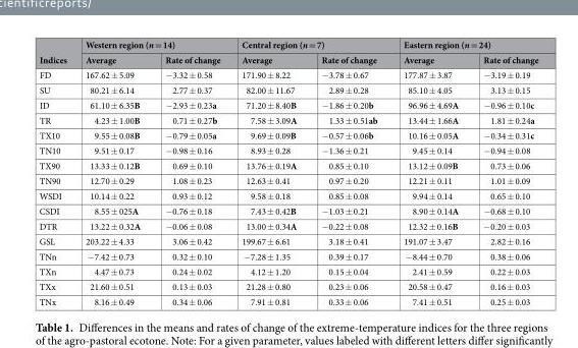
<table><thead><tr><td rowspan="2">Indices</td><td colspan="2">Western region (n = 14)</td><td colspan="2">Central region (n = 7)</td><td colspan="2">Eastern region (n = 24)</td></tr><tr><td>Average</td><td>Rate of change</td><td>Average</td><td>Rate of change</td><td>Average</td><td>Rate of change</td></tr></thead><tbody><tr><td>FD</td><td>167.62 ± 5.09</td><td>−3.32 ± 0.58</td><td>171.90 ± 8.22</td><td>−3.78 ± 0.67</td><td>177.87 ± 3.87</td><td>−3.19 ± 0.19</td></tr><tr><td>SU</td><td>80.21 ± 6.14</td><td>2.77 ± 0.37</td><td>82.00 ± 11.67</td><td>2.89 ± 0.28</td><td>85.10 ± 4.05</td><td>3.13 ± 0.15</td></tr><tr><td>ID</td><td>61.10 ± 6.35B</td><td>−2.93 ± 0.23a</td><td>71.20 ± 8.40B</td><td>−1.86 ± 0.20b</td><td>96.96 ± 4.69A</td><td>−0.96 ± 0.10c</td></tr><tr><td>TR</td><td>4.23 ± 1.00B</td><td>0.71 ± 0.27b</td><td>7.58 ± 3.09A</td><td>1.33 ± 0.51ab</td><td>13.44 ± 1.66A</td><td>1.81 ± 0.24a</td></tr><tr><td>TX10</td><td>9.55 ± 0.08B</td><td>−0.79 ± 0.05a</td><td>9.69 ± 0.09B</td><td>−0.57 ± 0.06b</td><td>10.16 ± 0.05A</td><td>−0.34 ± 0.31c</td></tr><tr><td>TN10</td><td>9.51 ± 0.17</td><td>−0.98 ± 0.16</td><td>8.93 ± 0.28</td><td>−1.36 ± 0.21</td><td>9.45 ± 0.14</td><td>−0.94 ± 0.08</td></tr><tr><td>TX90</td><td>13.33 ± 0.12B</td><td>0.69 ± 0.10</td><td>13.76 ± 0.19A</td><td>0.85 ± 0.10</td><td>13.12 ± 0.09B</td><td>0.73 ± 0.06</td></tr><tr><td>TN90</td><td>12.70 ± 0.29</td><td>1.08 ± 0.23</td><td>12.63 ± 0.41</td><td>0.97 ± 0.20</td><td>12.21 ± 0.11</td><td>1.01 ± 0.09</td></tr><tr><td>WSDI</td><td>10.14 ± 0.22</td><td>0.93 ± 0.12</td><td>9.58 ± 0.18</td><td>0.85 ± 0.08</td><td>9.94 ± 0.14</td><td>0.65 ± 0.10</td></tr><tr><td>CSDI</td><td>8.55 ± 025A</td><td>−0.76 ± 0.18</td><td>7.43 ± 0.42B</td><td>−1.03 ± 0.21</td><td>8.90 ± 0.14A</td><td>−0.68 ± 0.10</td></tr><tr><td>DTR</td><td>13.22 ± 0.32A</td><td>−0.06 ± 0.08</td><td>13.00 ± 0.34A</td><td>−0.22 ± 0.08</td><td>12.32 ± 0.16B</td><td>−0.20 ± 0.03</td></tr><tr><td>GSL</td><td>203.22 ± 4.33</td><td>3.06 ± 0.42</td><td>199.67 ± 6.61</td><td>3.18 ± 0.41</td><td>191.07 ± 3.47</td><td>2.82 ± 0.16</td></tr><tr><td>TNn</td><td>−7.42 ± 0.73</td><td>0.32 ± 0.10</td><td>−7.28 ± 1.35</td><td>0.39 ± 0.17</td><td>−8.44 ± 0.70</td><td>0.38 ± 0.06</td></tr><tr><td>TXn</td><td>4.47 ± 0.73</td><td>0.24 ± 0.02</td><td>4.12 ± 1.20</td><td>0.15 ± 0.04</td><td>2.41 ± 0.59</td><td>0.22 ± 0.03</td></tr><tr><td>TXx</td><td>21.60 ± 0.51</td><td>0.13 ± 0.03</td><td>21.28 ± 0.80</td><td>0.23 ± 0.06</td><td>20.58 ± 0.47</td><td>0.16 ± 0.03</td></tr><tr><td>TNx</td><td>8.16 ± 0.49</td><td>0.34 ± 0.06</td><td>7.91 ± 0.81</td><td>0.33 ± 0.06</td><td>7.41 ± 0.51</td><td>0.25 ± 0.03</td></tr></tbody></table>